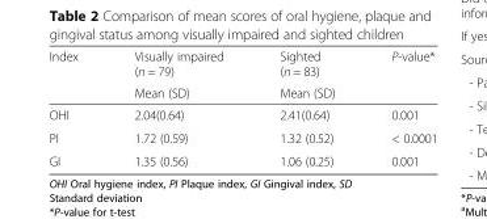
<table><thead><tr><td rowspan="2">Index</td><td rowspan="2">Visually impaired (n = 79) Mean (SD)</td><td rowspan="2">Sighted (n = 83) Mean (SD)</td><td rowspan="2">P-value*</td></tr><tr></tr></thead><tbody><tr><td>OHI</td><td>2.04(0.64)</td><td>2.41(0.64)</td><td>0.001</td></tr><tr><td>PI</td><td>1.72 (0.59)</td><td>1.32 (0.52)</td><td>&lt; 0.0001</td></tr><tr><td>GI</td><td>1.35 (0.56)</td><td>1.06 (0.25)</td><td>0.001</td></tr></tbody></table>